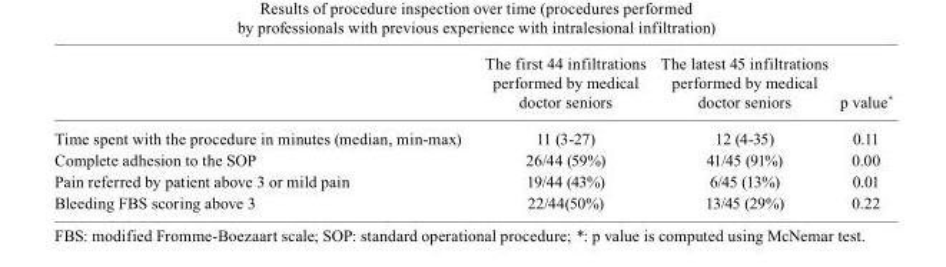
<table><thead><tr><td></td><td>The first 44 infiltrations performed by medical doctor seniors</td><td>The latest 45 infiltrations performed by medical doctor seniors</td><td>p value*</td></tr></thead><tbody><tr><td>Time spent with the procedure in minutes (median, min-max)</td><td>11 (3-27)</td><td>12 (4-35)</td><td>0.11</td></tr><tr><td>Complete adhesion to the SOP</td><td>26/44 (59%)</td><td>41/45 (91%)</td><td>0.00</td></tr><tr><td>Pain referred by patient above 3 or mild pain</td><td>19/44 (43%)</td><td>6/45 (13%)</td><td>0.01</td></tr><tr><td>Bleeding FBS scoring above 3</td><td>22/44(50%)</td><td>13/45 (29%)</td><td>0.22</td></tr></tbody></table>